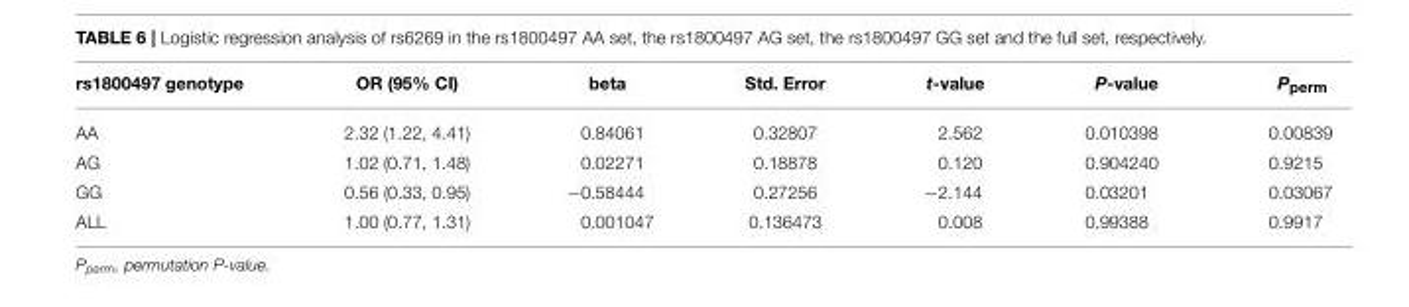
<table><thead><tr><td>rs1800497 genotype</td><td>OR (95% CI)</td><td>beta</td><td>Std. Error</td><td>t-value</td><td>P-value</td><td>P<sub>perm</sub></td></tr></thead><tbody><tr><td>AA</td><td>2.32 (1.22, 4.41)</td><td>0.84061</td><td>0.32807</td><td>2.562</td><td>0.010398</td><td>0.00839</td></tr><tr><td>AG</td><td>1.02 (0.71, 1.48)</td><td>0.02271</td><td>0.18878</td><td>0.120</td><td>0.904240</td><td>0.9215</td></tr><tr><td>GG</td><td>0.56 (0.33, 0.95)</td><td>−0.58444</td><td>0.27256</td><td>−2.144</td><td>0.03201</td><td>0.03067</td></tr><tr><td>ALL</td><td>1.00 (0.77, 1.31)</td><td>0.001047</td><td>0.136473</td><td>0.008</td><td>0.99388</td><td>0.9917</td></tr></tbody></table>